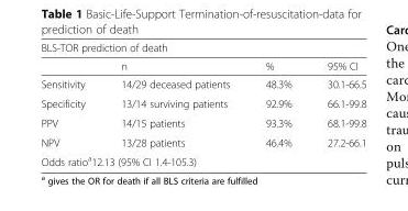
<table><thead><tr><td colspan="4">BLS-TOR prediction of death</td></tr><tr><td></td><td>n</td><td>%</td><td>95% CI</td></tr></thead><tbody><tr><td>Sensitivity</td><td>14/29 deceased patients</td><td>48.3%</td><td>30.1-66.5</td></tr><tr><td>Specificity</td><td>13/14 surviving patients</td><td>92.9%</td><td>66.1-99.8</td></tr><tr><td>PPV</td><td>14/15 patients</td><td>93.3%</td><td>68.1-99.8</td></tr><tr><td>NPV</td><td>13/28 patients</td><td>46.4%</td><td>27.2-66.1</td></tr><tr><td colspan="4">Odds ratio<sup>a</sup>12.13 (95% CI 1.4-105.3)</td></tr></tbody></table>